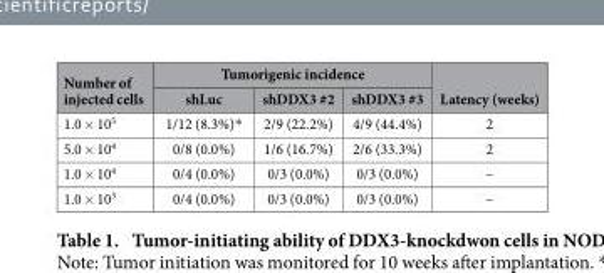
<table><thead><tr><td rowspan="2">Number of injected cells</td><td colspan="3">Tumorigenic incidence</td><td rowspan="2">Latency (weeks)</td></tr><tr><td>shLuc</td><td>shDDX3 #2</td><td>shDDX3 #3</td></tr></thead><tbody><tr><td>1.0 × 10<sup>5</sup></td><td>1/12 (8.3%)*</td><td>2/9 (22.2%)</td><td>4/9 (44.4%)</td><td>2</td></tr><tr><td>5.0 × 10<sup>4</sup></td><td>0/8 (0.0%)</td><td>1/6 (16.7%)</td><td>2/6 (33.3%)</td><td>2</td></tr><tr><td>1.0 × 10<sup>4</sup></td><td>0/4 (0.0%)</td><td>0/3 (0.0%)</td><td>0/3 (0.0%)</td><td>–</td></tr><tr><td>1.0 × 10<sup>3</sup></td><td>0/4 (0.0%)</td><td>0/3 (0.0%)</td><td>0/3 (0.0%)</td><td>–</td></tr></tbody></table>